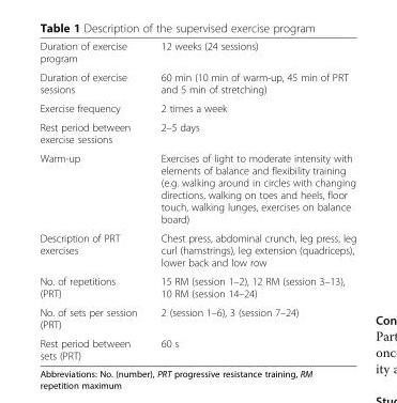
<table><tbody><tr><td>Duration of exercise program</td><td>12 weeks (24 sessions)</td></tr><tr><td>Duration of exercise sessions</td><td>60 min (10 min of warm-up, 45 min of PRT and 5 min of stretching)</td></tr><tr><td>Exercise frequency</td><td>2 times a week</td></tr><tr><td>Rest period between exercise sessions</td><td>2–5 days</td></tr><tr><td>Warm-up</td><td>Exercises of light to moderate intensity with elements of balance and flexibility training (e.g. walking around in circles with changing directions, walking on toes and heels, floor touch, walking lunges, exercises on balance board)</td></tr><tr><td>Description of PRT exercises</td><td>Chest press, abdominal crunch, leg press, leg curl (hamstrings), leg extension (quadriceps), lower back and low row</td></tr><tr><td>No. of repetitions (PRT)</td><td>15 RM (session 1–2), 12 RM (session 3–13), 10 RM (session 14–24)</td></tr><tr><td>No. of sets per session (PRT)</td><td>2 (session 1–6), 3 (session 7–24)</td></tr><tr><td>Rest period between sets (PRT)</td><td>60 s</td></tr></tbody></table>